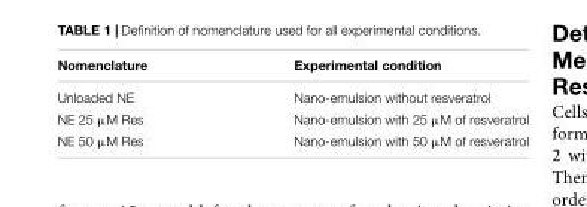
<table><thead><tr><td>Nomenclature</td><td>Experimental condition</td></tr></thead><tbody><tr><td>Unloaded NE</td><td>Nano-emulsion without resveratrol</td></tr><tr><td>NE 25 µM Res</td><td>Nano-emulsion with 25 µM of resveratrol</td></tr><tr><td>NE 50 µM Res</td><td>Nano-emulsion with 50 µM of resveratrol</td></tr></tbody></table>